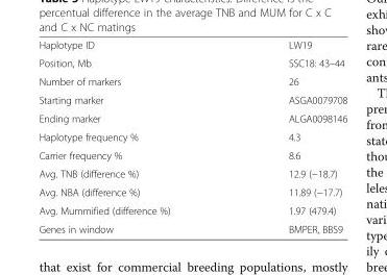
<table><tbody><tr><td>Haplotype ID</td><td>LW19</td></tr><tr><td>Position, Mb</td><td>SSC18: 43–44</td></tr><tr><td>Number of markers</td><td>26</td></tr><tr><td>Starting marker</td><td>ASGA0079708</td></tr><tr><td>Ending marker</td><td>ALGA0098146</td></tr><tr><td>Haplotype frequency %</td><td>4.3</td></tr><tr><td>Carrier frequency %</td><td>8.6</td></tr><tr><td>Avg. TNB (difference %)</td><td>12.9 (−18.7)</td></tr><tr><td>Avg. NBA (difference %)</td><td>11.89 (−17.7)</td></tr><tr><td>Avg. Mummified (difference %)</td><td>1.97 (479.4)</td></tr><tr><td>Genes in window</td><td>BMPER, BBS9</td></tr></tbody></table>